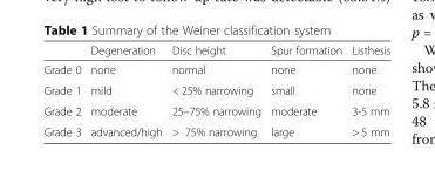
<table><thead><tr><td></td><td>Degeneration</td><td>Disc height</td><td>Spur formation</td><td>Listhesis</td></tr></thead><tbody><tr><td>Grade 0</td><td>none</td><td>normal</td><td>none</td><td>none</td></tr><tr><td>Grade 1</td><td>mild</td><td>&lt; 25% narrowing</td><td>small</td><td>none</td></tr><tr><td>Grade 2</td><td>moderate</td><td>25–75% narrowing</td><td>moderate</td><td>3-5 mm</td></tr><tr><td>Grade 3</td><td>advanced/high</td><td>&gt; 75% narrowing</td><td>large</td><td>&gt; 5 mm</td></tr></tbody></table>